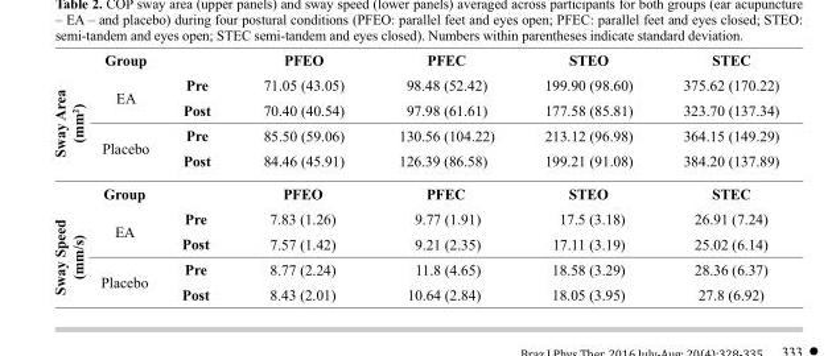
<table><thead><tr><td></td><td>Group</td><td></td><td>PFEO</td><td>PFEC</td><td>STEO</td><td>STEC</td></tr></thead><tbody><tr><td rowspan="4">Sway Area (mm<sup>2</sup>)</td><td rowspan="2">EA</td><td>Pre</td><td>71.05 (43.05)</td><td>98.48 (52.42)</td><td>199.90 (98.60)</td><td>375.62 (170.22)</td></tr><tr><td>Post</td><td>70.40 (40.54)</td><td>97.98 (61.61)</td><td>177.58 (85.81)</td><td>323.70 (137.34)</td></tr><tr><td rowspan="2">Placebo</td><td>Pre</td><td>85.50 (59.06)</td><td>130.56 (104.22)</td><td>213.12 (96.98)</td><td>364.15 (149.29)</td></tr><tr><td>Post</td><td>84.46 (45.91)</td><td>126.39 (86.58)</td><td>199.21 (91.08)</td><td>384.20 (137.89)</td></tr><tr><td rowspan="5">Sway Speed (mm/s)</td><td>Group</td><td></td><td>PFEO</td><td>PFEC</td><td>STEO</td><td>STEC</td></tr><tr><td rowspan="2">EA</td><td>Pre</td><td>7.83 (1.26)</td><td>9.77 (1.91)</td><td>17.5 (3.18)</td><td>26.91 (7.24)</td></tr><tr><td>Post</td><td>7.57 (1.42)</td><td>9.21 (2.35)</td><td>17.11 (3.19)</td><td>25.02 (6.14)</td></tr><tr><td rowspan="2">Placebo</td><td>Pre</td><td>8.77 (2.24)</td><td>11.8 (4.65)</td><td>18.58 (3.29)</td><td>28.36 (6.37)</td></tr><tr><td>Post</td><td>8.43 (2.01)</td><td>10.64 (2.84)</td><td>18.05 (3.95)</td><td>27.8 (6.92)</td></tr></tbody></table>